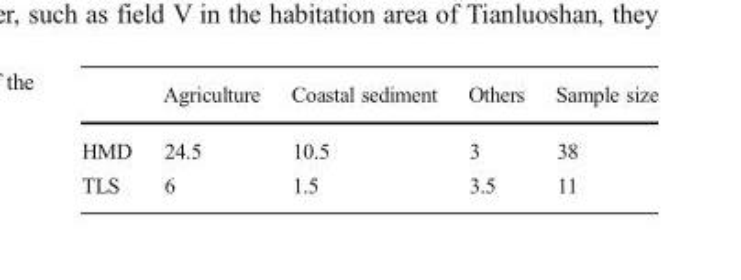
<table><thead><tr><td></td><td>Agriculture</td><td>Coastal sediment</td><td>Others</td><td>Sample size</td></tr></thead><tbody><tr><td>HMD</td><td>24.5</td><td>10.5</td><td>3</td><td>38</td></tr><tr><td>TLS</td><td>6</td><td>1.5</td><td>3.5</td><td>11</td></tr></tbody></table>